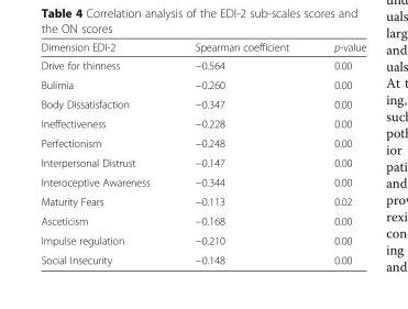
<table><thead><tr><td>Dimension EDI-2</td><td>Spearman coefficient</td><td>p-value</td></tr></thead><tbody><tr><td>Drive for thinness</td><td>−0.564</td><td>0.00</td></tr><tr><td>Bulimia</td><td>−0.260</td><td>0.00</td></tr><tr><td>Body Dissatisfaction</td><td>−0.347</td><td>0.00</td></tr><tr><td>Ineffectiveness</td><td>−0.228</td><td>0.00</td></tr><tr><td>Perfectionism</td><td>−0.248</td><td>0.00</td></tr><tr><td>Interpersonal Distrust</td><td>−0.147</td><td>0.00</td></tr><tr><td>Interoceptive Awareness</td><td>−0.344</td><td>0.00</td></tr><tr><td>Maturity Fears</td><td>−0.113</td><td>0.02</td></tr><tr><td>Asceticism</td><td>−0.168</td><td>0.00</td></tr><tr><td>Impulse regulation</td><td>−0.210</td><td>0.00</td></tr><tr><td>Social Insecurity</td><td>−0.148</td><td>0.00</td></tr></tbody></table>